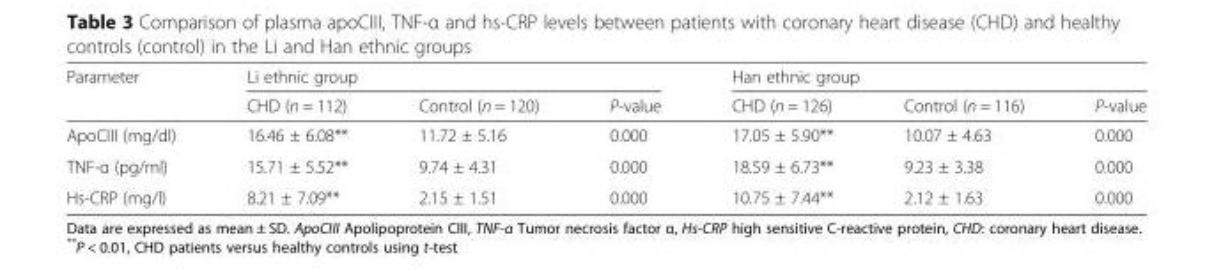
<table><thead><tr><td rowspan="2">Parameter</td><td colspan="3">Li ethnic group</td><td colspan="3">Han ethnic group</td></tr><tr><td>CHD (n = 112)</td><td>Control (n = 120)</td><td>P-value</td><td>CHD (n = 126)</td><td>Control (n = 116)</td><td>P-value</td></tr></thead><tbody><tr><td>ApoCIII (mg/dl)</td><td>16.46 ± 6.08**</td><td>11.72 ± 5.16</td><td>0.000</td><td>17.05 ± 5.90**</td><td>10.07 ± 4.63</td><td>0.000</td></tr><tr><td>TNF-α (pg/ml)</td><td>15.71 ± 5.52**</td><td>9.74 ± 4.31</td><td>0.000</td><td>18.59 ± 6.73**</td><td>9.23 ± 3.38</td><td>0.000</td></tr><tr><td>Hs-CRP (mg/l)</td><td>8.21 ± 7.09**</td><td>2.15 ± 1.51</td><td>0.000</td><td>10.75 ± 7.44**</td><td>2.12 ± 1.63</td><td>0.000</td></tr></tbody></table>